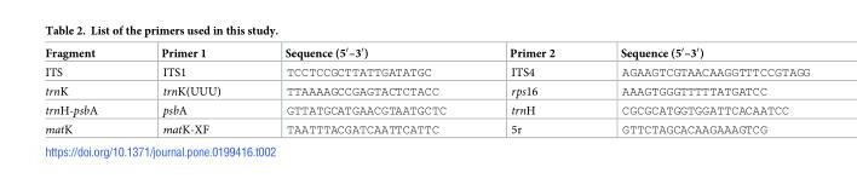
<table><thead><tr><td>Fragment</td><td>Primer 1</td><td>Sequence (5′–3′)</td><td>Primer 2</td><td>Sequence (5′–3′)</td></tr></thead><tbody><tr><td>ITS</td><td>ITS1</td><td>TCCTCCGCTTATTGATATGC</td><td>ITS4</td><td>AGAAGTCGTAACAAGGTTTCCGTAGG</td></tr><tr><td>trnK</td><td>trnK(UUU)</td><td>TTAAAAGCCGAGTACTCTACC</td><td>rps16</td><td>AAAGTGGGTTTTTATGATCC</td></tr><tr><td>trnH-psbA</td><td>psbA</td><td>GTTATGCATGAACGTAATGCTC</td><td>trnH</td><td>CGCGCATGGTGGATTCACAATCC</td></tr><tr><td>matK</td><td>matK-XF</td><td>TAATTTACGATCAATTCATTC</td><td>5r</td><td>GTTCTAGCACAAGAAAGTCG</td></tr></tbody></table>